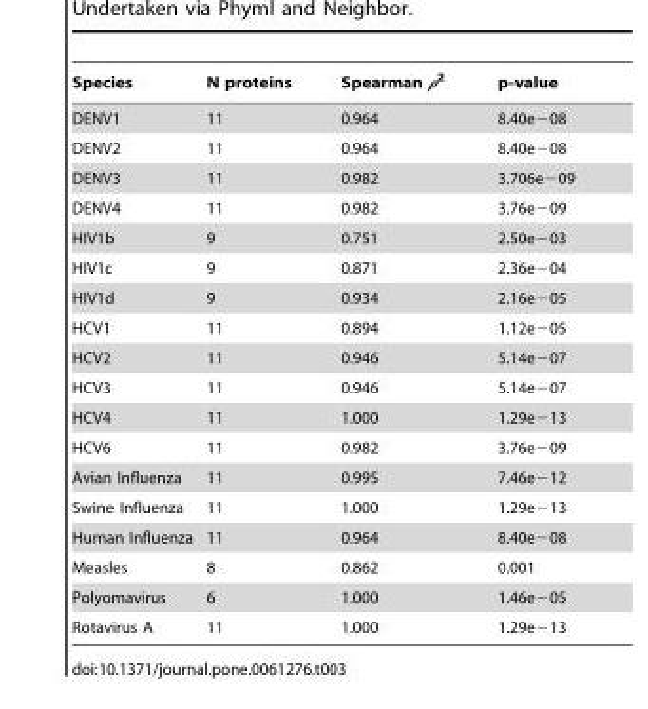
<table><thead><tr><td>Species</td><td>N proteins</td><td>Spearman ρ<sup>2</sup></td><td>p-value</td></tr></thead><tbody><tr><td>DENV1</td><td>11</td><td>0.964</td><td>8.40e−08</td></tr><tr><td>DENV2</td><td>11</td><td>0.964</td><td>8.40e−08</td></tr><tr><td>DENV3</td><td>11</td><td>0.982</td><td>3.706e−09</td></tr><tr><td>DENV4</td><td>11</td><td>0.982</td><td>3.76e−09</td></tr><tr><td>HIV1b</td><td>9</td><td>0.751</td><td>2.50e−03</td></tr><tr><td>HIV1c</td><td>9</td><td>0.871</td><td>2.36e−04</td></tr><tr><td>HIV1d</td><td>9</td><td>0.934</td><td>2.16e−05</td></tr><tr><td>HCV1</td><td>11</td><td>0.894</td><td>1.12e−05</td></tr><tr><td>HCV2</td><td>11</td><td>0.946</td><td>5.14e−07</td></tr><tr><td>HCV3</td><td>11</td><td>0.946</td><td>5.14e−07</td></tr><tr><td>HCV4</td><td>11</td><td>1.000</td><td>1.29e−13</td></tr><tr><td>HCV6</td><td>11</td><td>0.982</td><td>3.76e−09</td></tr><tr><td>Avian Influenza</td><td>11</td><td>0.995</td><td>7.46e−12</td></tr><tr><td>Swine Influenza</td><td>11</td><td>1.000</td><td>1.29e−13</td></tr><tr><td>Human Influenza</td><td>11</td><td>0.964</td><td>8.40e−08</td></tr><tr><td>Measles</td><td>8</td><td>0.862</td><td>0.001</td></tr><tr><td>Polyomavirus</td><td>6</td><td>1.000</td><td>1.46e−05</td></tr><tr><td>Rotavirus A</td><td>11</td><td>1.000</td><td>1.29e−13</td></tr></tbody></table>